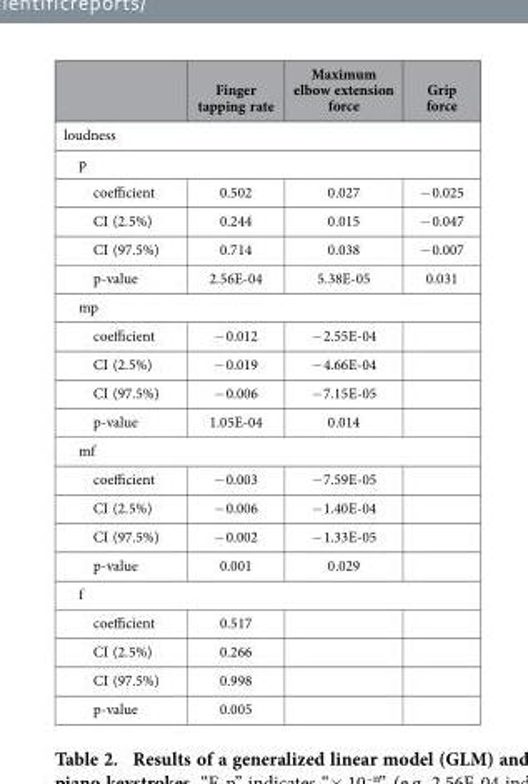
<table><thead><tr><td></td><td>Finger tapping rate</td><td>Maximum elbow extension force</td><td>Grip force</td></tr></thead><tbody><tr><td colspan="4">loudness</td></tr><tr><td colspan="4">p</td></tr><tr><td>coefficient</td><td>0.502</td><td>0.027</td><td>− 0.025</td></tr><tr><td>CI (2.5%)</td><td>0.244</td><td>0.015</td><td>− 0.047</td></tr><tr><td>CI (97.5%)</td><td>0.714</td><td>0.038</td><td>− 0.007</td></tr><tr><td>p-value</td><td>2.56E-04</td><td>5.38E-05</td><td>0.031</td></tr><tr><td colspan="4">mp</td></tr><tr><td>coefficient</td><td>− 0.012</td><td>− 2.55E-04</td><td></td></tr><tr><td>CI (2.5%)</td><td>− 0.019</td><td>− 4.66E-04</td><td></td></tr><tr><td>CI (97.5%)</td><td>− 0.006</td><td>− 7.15E-05</td><td></td></tr><tr><td>p-value</td><td>1.05E-04</td><td>0.014</td><td></td></tr><tr><td colspan="4">mf</td></tr><tr><td>coefficient</td><td>− 0.003</td><td>− 7.59E-05</td><td></td></tr><tr><td>CI (2.5%)</td><td>− 0.006</td><td>− 1.40E-04</td><td></td></tr><tr><td>CI (97.5%)</td><td>− 0.002</td><td>− 1.33E-05</td><td></td></tr><tr><td>p-value</td><td>0.001</td><td>0.029</td><td></td></tr><tr><td colspan="4">f</td></tr><tr><td>coefficient</td><td>0.517</td><td></td><td></td></tr><tr><td>CI (2.5%)</td><td>0.266</td><td></td><td></td></tr><tr><td>CI (97.5%)</td><td>0.998</td><td></td><td></td></tr><tr><td>p-value</td><td>0.005</td><td></td><td></td></tr></tbody></table>